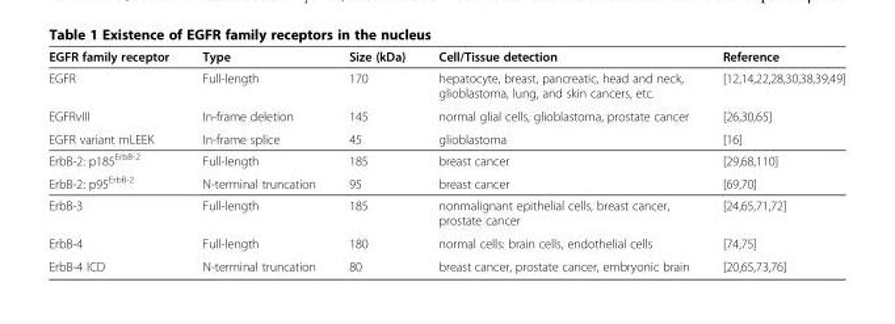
<table><thead><tr><td>EGFR family receptor</td><td>Type</td><td>Size (kDa)</td><td>Cell/Tissue detection</td><td>Reference</td></tr></thead><tbody><tr><td>EGFR</td><td>Full-length</td><td>170</td><td>hepatocyte, breast, pancreatic, head and neck, glioblastoma, lung, and skin cancers, etc.</td><td>[12,14,22,28,30,38,39,49]</td></tr><tr><td>EGFRvIII</td><td>In-frame deletion</td><td>145</td><td>normal glial cells, glioblastoma, prostate cancer</td><td>[26,30,65]</td></tr><tr><td>EGFR variant mLEEK</td><td>In-frame splice</td><td>45</td><td>glioblastoma</td><td>[16]</td></tr><tr><td>ErbB-2: p185<sup>ErbB-2</sup></td><td>Full-length</td><td>185</td><td>breast cancer</td><td>[29,68,110]</td></tr><tr><td>ErbB-2: p95<sup>ErbB-2</sup></td><td>N-terminal truncation</td><td>95</td><td>breast cancer</td><td>[69,70]</td></tr><tr><td>ErbB-3</td><td>Full-length</td><td>185</td><td>nonmalignant epithelial cells, breast cancer, prostate cancer</td><td>[24,65,71,72]</td></tr><tr><td>ErbB-4</td><td>Full-length</td><td>180</td><td>normal cells: brain cells, endothelial cells</td><td>[74,75]</td></tr><tr><td>ErbB-4 ICD</td><td>N-terminal truncation</td><td>80</td><td>breast cancer, prostate cancer, embryonic brain</td><td>[20,65,73,76]</td></tr></tbody></table>